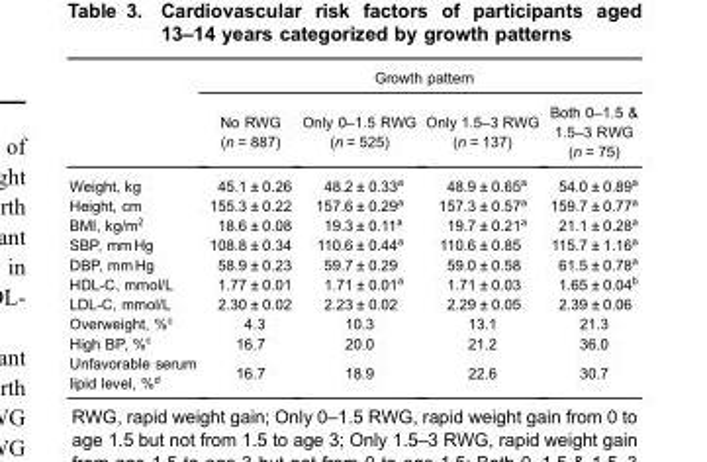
<table><thead><tr><td rowspan="2"></td><td colspan="4">Growth pattern</td></tr><tr><td>No RWG (n = 887)</td><td>Only 0–1.5 RWG (n = 525)</td><td>Only 1.5–3 RWG (n = 137)</td><td>Both 0–1.5 &amp; 1.5–3 RWG (n = 75)</td></tr></thead><tbody><tr><td>Weight, kg</td><td>45.1 ± 0.26</td><td>48.2 ± 0.33<sup>a</sup></td><td>48.9 ± 0.65<sup>a</sup></td><td>54.0 ± 0.89<sup>a</sup></td></tr><tr><td>Height, cm</td><td>155.3 ± 0.22</td><td>157.6 ± 0.29<sup>a</sup></td><td>157.3 ± 0.57<sup>a</sup></td><td>159.7 ± 0.77<sup>a</sup></td></tr><tr><td>BMI, kg/m<sup>2</sup></td><td>18.6 ± 0.08</td><td>19.3 ± 0.11<sup>a</sup></td><td>19.7 ± 0.21<sup>a</sup></td><td>21.1 ± 0.28<sup>a</sup></td></tr><tr><td>SBP, mm Hg</td><td>108.8 ± 0.34</td><td>110.6 ± 0.44<sup>a</sup></td><td>110.6 ± 0.85</td><td>115.7 ± 1.16<sup>a</sup></td></tr><tr><td>DBP, mm Hg</td><td>58.9 ± 0.23</td><td>59.7 ± 0.29</td><td>59.0 ± 0.58</td><td>61.5 ± 0.78<sup>a</sup></td></tr><tr><td>HDL-C, mmol/L</td><td>1.77 ± 0.01</td><td>1.71 ± 0.01<sup>a</sup></td><td>1.71 ± 0.03</td><td>1.65 ± 0.04<sup>b</sup></td></tr><tr><td>LDL-C, mmol/L</td><td>2.30 ± 0.02</td><td>2.23 ± 0.02</td><td>2.29 ± 0.05</td><td>2.39 ± 0.06</td></tr><tr><td>Overweight, %<sup>c</sup></td><td>4.3</td><td>10.3</td><td>13.1</td><td>21.3</td></tr><tr><td>High BP, %<sup>c</sup></td><td>16.7</td><td>20.0</td><td>21.2</td><td>36.0</td></tr><tr><td>Unfavorable serum lipid level, %<sup>d</sup></td><td>16.7</td><td>18.9</td><td>22.6</td><td>30.7</td></tr></tbody></table>